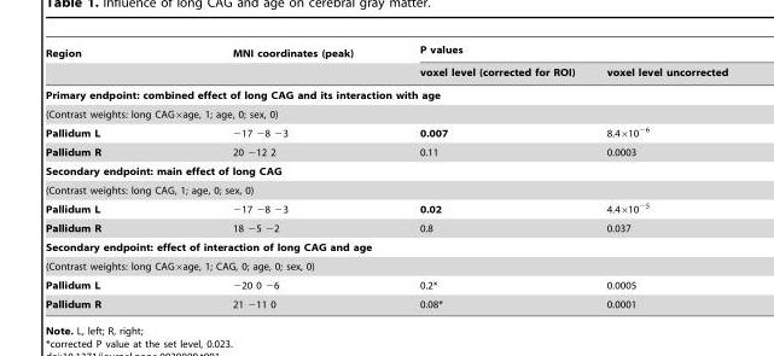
<table><thead><tr><td rowspan="2">Region</td><td rowspan="2">MNI coordinates (peak)</td><td colspan="2">P values</td></tr><tr><td>voxel level (corrected for ROI)</td><td>voxel level uncorrected</td></tr></thead><tbody><tr><td colspan="4">Primary endpoint: combined effect of long CAG and its interaction with age</td></tr><tr><td colspan="4">(Contrast weights: long CAG×age, 1; age, 0; sex, 0)</td></tr><tr><td>Pallidum L</td><td>−17 −8 −3</td><td>0.007</td><td>8.4×10<sup>−6</sup></td></tr><tr><td>Pallidum R</td><td>20 −12 2</td><td>0.11</td><td>0.0003</td></tr><tr><td colspan="4">Secondary endpoint: main effect of long CAG</td></tr><tr><td colspan="4">(Contrast weights: long CAG, 1; age, 0; sex, 0)</td></tr><tr><td>Pallidum L</td><td>−17 −8 −3</td><td>0.02</td><td>4.4×10<sup>−5</sup></td></tr><tr><td>Pallidum R</td><td>18 −5 −2</td><td>0.8</td><td>0.037</td></tr><tr><td colspan="4">Secondary endpoint: effect of interaction of long CAG and age</td></tr><tr><td colspan="4">(Contrast weights: long CAG×age, 1; CAG, 0; age, 0; sex, 0)</td></tr><tr><td>Pallidum L</td><td>−20 0 −6</td><td>0.2*</td><td>0.0005</td></tr><tr><td>Pallidum R</td><td>21 −11 0</td><td>0.08*</td><td>0.0001</td></tr></tbody></table>